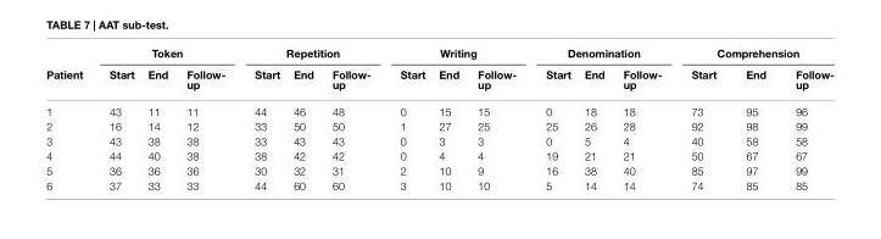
<table><thead><tr><td rowspan="2">Patient</td><td colspan="3">Token</td><td colspan="3">Repetition</td><td colspan="3">Writing</td><td colspan="3">Denomination</td><td colspan="3">Comprehension</td></tr><tr><td>Start</td><td>End</td><td>Follow- up</td><td>Start</td><td>End</td><td>Follow- up</td><td>Start</td><td>End</td><td>Follow- up</td><td>Start</td><td>End</td><td>Follow- up</td><td>Start</td><td>End</td><td>Follow- up</td></tr></thead><tbody><tr><td>1</td><td>43</td><td>11</td><td>11</td><td>44</td><td>46</td><td>48</td><td>0</td><td>15</td><td>15</td><td>0</td><td>18</td><td>18</td><td>73</td><td>95</td><td>96</td></tr><tr><td>2</td><td>16</td><td>14</td><td>12</td><td>33</td><td>50</td><td>50</td><td>1</td><td>27</td><td>25</td><td>25</td><td>26</td><td>28</td><td>92</td><td>98</td><td>99</td></tr><tr><td>3</td><td>43</td><td>38</td><td>38</td><td>33</td><td>43</td><td>43</td><td>0</td><td>3</td><td>3</td><td>0</td><td>5</td><td>4</td><td>40</td><td>58</td><td>58</td></tr><tr><td>4</td><td>44</td><td>40</td><td>38</td><td>38</td><td>42</td><td>42</td><td>0</td><td>4</td><td>4</td><td>19</td><td>21</td><td>21</td><td>50</td><td>67</td><td>67</td></tr><tr><td>5</td><td>36</td><td>36</td><td>36</td><td>30</td><td>32</td><td>31</td><td>2</td><td>10</td><td>9</td><td>16</td><td>38</td><td>40</td><td>85</td><td>97</td><td>99</td></tr><tr><td>6</td><td>37</td><td>33</td><td>33</td><td>44</td><td>60</td><td>60</td><td>3</td><td>10</td><td>10</td><td>5</td><td>14</td><td>14</td><td>74</td><td>85</td><td>85</td></tr></tbody></table>